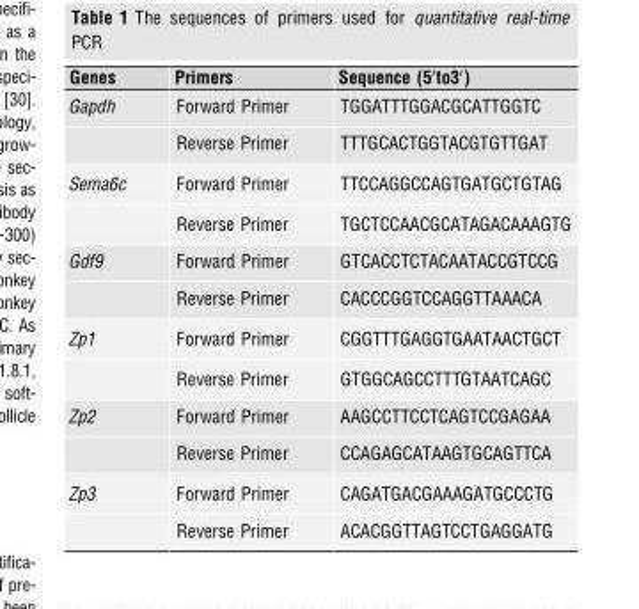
<table><thead><tr><td>Genes</td><td>Primers</td><td>Sequence (5′to3′)</td></tr></thead><tbody><tr><td rowspan="2">Gapdh</td><td>Forward Primer</td><td>TGGATTTGGACGCATTGGTC</td></tr><tr><td>Reverse Primer</td><td>TTTGCACTGGTACGTGTTGAT</td></tr><tr><td rowspan="2">Sema6c</td><td>Forward Primer</td><td>TTCCAGGCCAGTGATGCTGTAG</td></tr><tr><td>Reverse Primer</td><td>TGCTCCAACGCATAGACAAAGTG</td></tr><tr><td rowspan="2">Gdf9</td><td>Forward Primer</td><td>GTCACCTCTACAATACCGTCCG</td></tr><tr><td>Reverse Primer</td><td>CACCCGGTCCAGGTTAAACA</td></tr><tr><td rowspan="2">Zp1</td><td>Forward Primer</td><td>CGGTTTGAGGTGAATAACTGCT</td></tr><tr><td>Reverse Primer</td><td>GTGGCAGCCTTTGTAATCAGC</td></tr><tr><td rowspan="2">Zp2</td><td>Forward Primer</td><td>AAGCCTTCCTCAGTCCGAGAA</td></tr><tr><td>Reverse Primer</td><td>CCAGAGCATAAGTGCAGTTCA</td></tr><tr><td rowspan="2">Zp3</td><td>Forward Primer</td><td>CAGATGACGAAAGATGCCCTG</td></tr><tr><td>Reverse Primer</td><td>ACACGGTTAGTCCTGAGGATG</td></tr></tbody></table>